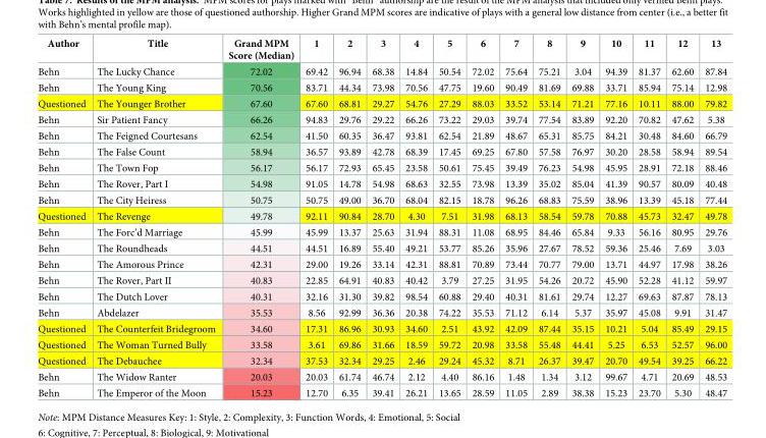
<table><thead><tr><td>Author</td><td>Title</td><td>Grand MPM Score (Median)</td><td>1</td><td>2</td><td>3</td><td>4</td><td>5</td><td>6</td><td>7</td><td>8</td><td>9</td><td>10</td><td>11</td><td>12</td><td>13</td></tr></thead><tbody><tr><td>Behn</td><td>The Lucky Chance</td><td>72.02</td><td>69.42</td><td>96.94</td><td>68.38</td><td>14.84</td><td>50.54</td><td>72.02</td><td>75.64</td><td>75.21</td><td>3.04</td><td>94.39</td><td>81.37</td><td>62.60</td><td>87.84</td></tr><tr><td>Behn</td><td>The Young King</td><td>70.56</td><td>83.71</td><td>44.34</td><td>73.98</td><td>70.56</td><td>47.75</td><td>19.60</td><td>90.49</td><td>81.69</td><td>69.88</td><td>33.71</td><td>85.94</td><td>75.14</td><td>12.98</td></tr><tr><td>Questioned</td><td>The Younger Brother</td><td>67.60</td><td>67.60</td><td>68.81</td><td>29.27</td><td>54.76</td><td>27.29</td><td>88.03</td><td>33.52</td><td>53.14</td><td>71.21</td><td>77.16</td><td>10.11</td><td>88.00</td><td>79.82</td></tr><tr><td>Behn</td><td>Sir Patient Fancy</td><td>66.26</td><td>94.83</td><td>29.76</td><td>29.22</td><td>66.26</td><td>73.22</td><td>29.03</td><td>39.74</td><td>77.54</td><td>83.89</td><td>92.20</td><td>70.82</td><td>47.62</td><td>5.38</td></tr><tr><td>Behn</td><td>The Feigned Courtesans</td><td>62.54</td><td>41.50</td><td>60.35</td><td>36.47</td><td>93.81</td><td>62.54</td><td>21.89</td><td>48.67</td><td>65.31</td><td>85.75</td><td>84.21</td><td>30.48</td><td>84.60</td><td>66.79</td></tr><tr><td>Behn</td><td>The False Count</td><td>58.94</td><td>36.57</td><td>93.89</td><td>42.78</td><td>68.39</td><td>17.45</td><td>69.25</td><td>67.80</td><td>57.58</td><td>76.97</td><td>30.20</td><td>28.58</td><td>58.94</td><td>89.54</td></tr><tr><td>Behn</td><td>The Town Fop</td><td>56.17</td><td>56.17</td><td>72.93</td><td>65.45</td><td>23.58</td><td>50.61</td><td>75.45</td><td>39.49</td><td>76.23</td><td>54.98</td><td>45.95</td><td>28.91</td><td>72.18</td><td>88.46</td></tr><tr><td>Behn</td><td>The Rover, Part I</td><td>54.98</td><td>91.05</td><td>14.78</td><td>54.98</td><td>68.63</td><td>32.55</td><td>73.98</td><td>13.39</td><td>35.02</td><td>85.04</td><td>41.39</td><td>90.57</td><td>80.09</td><td>40.48</td></tr><tr><td>Behn</td><td>The City Heiress</td><td>50.75</td><td>50.75</td><td>49.00</td><td>36.70</td><td>68.04</td><td>82.15</td><td>18.78</td><td>96.26</td><td>68.83</td><td>75.59</td><td>38.96</td><td>13.39</td><td>45.18</td><td>77.44</td></tr><tr><td>Questioned</td><td>The Revenge</td><td>49.78</td><td>92.11</td><td>90.84</td><td>28.70</td><td>4.30</td><td>7.51</td><td>31.98</td><td>68.13</td><td>58.54</td><td>59.78</td><td>70.88</td><td>45.73</td><td>32.47</td><td>49.78</td></tr><tr><td>Behn</td><td>The Forc’d Marriage</td><td>45.99</td><td>45.99</td><td>13.37</td><td>25.63</td><td>31.94</td><td>88.31</td><td>11.08</td><td>68.95</td><td>84.46</td><td>65.84</td><td>9.33</td><td>56.16</td><td>80.95</td><td>29.76</td></tr><tr><td>Behn</td><td>The Roundheads</td><td>44.51</td><td>44.51</td><td>16.89</td><td>55.40</td><td>49.21</td><td>53.77</td><td>85.26</td><td>35.96</td><td>27.67</td><td>78.52</td><td>59.36</td><td>25.46</td><td>7.69</td><td>3.03</td></tr><tr><td>Behn</td><td>The Amorous Prince</td><td>42.31</td><td>29.00</td><td>19.26</td><td>33.14</td><td>42.31</td><td>88.81</td><td>70.89</td><td>73.44</td><td>70.77</td><td>79.00</td><td>13.71</td><td>44.97</td><td>17.98</td><td>38.26</td></tr><tr><td>Behn</td><td>The Rover, Part II</td><td>40.83</td><td>22.85</td><td>64.91</td><td>40.83</td><td>40.42</td><td>3.79</td><td>27.25</td><td>31.95</td><td>54.26</td><td>20.72</td><td>45.90</td><td>52.28</td><td>41.12</td><td>59.97</td></tr><tr><td>Behn</td><td>The Dutch Lover</td><td>40.31</td><td>32.16</td><td>31.30</td><td>39.82</td><td>98.54</td><td>60.88</td><td>29.40</td><td>40.31</td><td>81.61</td><td>29.74</td><td>12.27</td><td>69.63</td><td>87.87</td><td>78.13</td></tr><tr><td>Behn</td><td>Abdelazer</td><td>35.53</td><td>8.56</td><td>92.99</td><td>36.36</td><td>20.38</td><td>74.22</td><td>35.53</td><td>71.12</td><td>6.14</td><td>5.37</td><td>35.97</td><td>45.08</td><td>9.91</td><td>31.47</td></tr><tr><td>Questioned</td><td>The Counterfeit Bridegroom</td><td>34.60</td><td>17.31</td><td>86.96</td><td>30.93</td><td>34.60</td><td>2.51</td><td>43.92</td><td>42.09</td><td>87.44</td><td>35.15</td><td>10.21</td><td>5.04</td><td>85.49</td><td>29.15</td></tr><tr><td>Questioned</td><td>The Woman Turned Bully</td><td>33.58</td><td>3.61</td><td>69.86</td><td>31.66</td><td>18.59</td><td>59.72</td><td>20.98</td><td>33.58</td><td>55.48</td><td>44.41</td><td>5.25</td><td>6.53</td><td>52.57</td><td>96.00</td></tr><tr><td>Questioned</td><td>The Debauchee</td><td>32.34</td><td>37.53</td><td>32.34</td><td>29.25</td><td>2.46</td><td>29.24</td><td>45.32</td><td>8.71</td><td>26.37</td><td>39.47</td><td>20.70</td><td>49.54</td><td>39.25</td><td>66.22</td></tr><tr><td>Behn</td><td>The Widow Ranter</td><td>20.03</td><td>20.03</td><td>61.74</td><td>46.74</td><td>2.12</td><td>4.40</td><td>86.16</td><td>1.48</td><td>1.34</td><td>3.12</td><td>99.67</td><td>4.71</td><td>20.69</td><td>48.53</td></tr><tr><td>Behn</td><td>The Emperor of the Moon</td><td>15.23</td><td>12.70</td><td>6.35</td><td>39.41</td><td>26.21</td><td>13.65</td><td>28.59</td><td>11.05</td><td>2.89</td><td>38.38</td><td>15.23</td><td>23.70</td><td>5.30</td><td>48.47</td></tr></tbody></table>